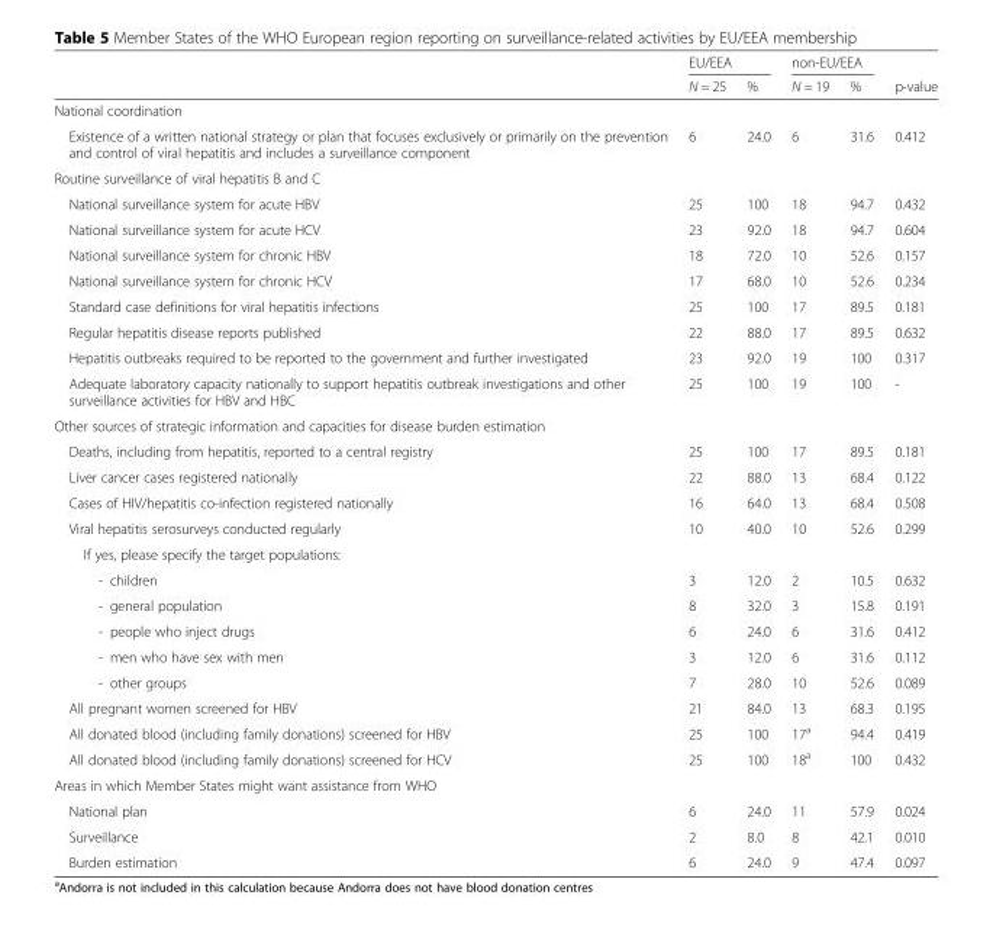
<table><thead><tr><td rowspan="2"></td><td colspan="2">EU/EEA</td><td colspan="2">non-EU/EEA</td><td rowspan="2">p-value</td></tr><tr><td>N = 25</td><td>%</td><td>N = 19</td><td>%</td></tr></thead><tbody><tr><td colspan="6">National coordination</td></tr><tr><td>Existence of a written national strategy or plan that focuses exclusively or primarily on the prevention and control of viral hepatitis and includes a surveillance component</td><td>6</td><td>24.0</td><td>6</td><td>31.6</td><td>0.412</td></tr><tr><td colspan="6">Routine surveillance of viral hepatitis B and C</td></tr><tr><td>National surveillance system for acute HBV</td><td>25</td><td>100</td><td>18</td><td>94.7</td><td>0.432</td></tr><tr><td>National surveillance system for acute HCV</td><td>23</td><td>92.0</td><td>18</td><td>94.7</td><td>0.604</td></tr><tr><td>National surveillance system for chronic HBV</td><td>18</td><td>72.0</td><td>10</td><td>52.6</td><td>0.157</td></tr><tr><td>National surveillance system for chronic HCV</td><td>17</td><td>68.0</td><td>10</td><td>52.6</td><td>0.234</td></tr><tr><td>Standard case definitions for viral hepatitis infections</td><td>25</td><td>100</td><td>17</td><td>89.5</td><td>0.181</td></tr><tr><td>Regular hepatitis disease reports published</td><td>22</td><td>88.0</td><td>17</td><td>89.5</td><td>0.632</td></tr><tr><td>Hepatitis outbreaks required to be reported to the government and further investigated</td><td>23</td><td>92.0</td><td>19</td><td>100</td><td>0.317</td></tr><tr><td>Adequate laboratory capacity nationally to support hepatitis outbreak investigations and other surveillance activities for HBV and HBC</td><td>25</td><td>100</td><td>19</td><td>100</td><td>-</td></tr><tr><td colspan="6">Other sources of strategic information and capacities for disease burden estimation</td></tr><tr><td>Deaths, including from hepatitis, reported to a central registry</td><td>25</td><td>100</td><td>17</td><td>89.5</td><td>0.181</td></tr><tr><td>Liver cancer cases registered nationally</td><td>22</td><td>88.0</td><td>13</td><td>68.4</td><td>0.122</td></tr><tr><td>Cases of HIV/hepatitis co-infection registered nationally</td><td>16</td><td>64.0</td><td>13</td><td>68.4</td><td>0.508</td></tr><tr><td>Viral hepatitis serosurveys conducted regularly</td><td>10</td><td>40.0</td><td>10</td><td>52.6</td><td>0.299</td></tr><tr><td colspan="6">If yes, please specify the target populations:</td></tr><tr><td>- children</td><td>3</td><td>12.0</td><td>2</td><td>10.5</td><td>0.632</td></tr><tr><td>- general population</td><td>8</td><td>32.0</td><td>3</td><td>15.8</td><td>0.191</td></tr><tr><td>- people who inject drugs</td><td>6</td><td>24.0</td><td>6</td><td>31.6</td><td>0.412</td></tr><tr><td>- men who have sex with men</td><td>3</td><td>12.0</td><td>6</td><td>31.6</td><td>0.112</td></tr><tr><td>- other groups</td><td>7</td><td>28.0</td><td>10</td><td>52.6</td><td>0.089</td></tr><tr><td>All pregnant women screened for HBV</td><td>21</td><td>84.0</td><td>13</td><td>68.3</td><td>0.195</td></tr><tr><td>All donated blood (including family donations) screened for HBV</td><td>25</td><td>100</td><td>17<sup>a</sup></td><td>94.4</td><td>0.419</td></tr><tr><td>All donated blood (including family donations) screened for HCV</td><td>25</td><td>100</td><td>18<sup>a</sup></td><td>100</td><td>0.432</td></tr><tr><td colspan="6">Areas in which Member States might want assistance from WHO</td></tr><tr><td>National plan</td><td>6</td><td>24.0</td><td>11</td><td>57.9</td><td>0.024</td></tr><tr><td>Surveillance</td><td>2</td><td>8.0</td><td>8</td><td>42.1</td><td>0.010</td></tr><tr><td>Burden estimation</td><td>6</td><td>24.0</td><td>9</td><td>47.4</td><td>0.097</td></tr></tbody></table>